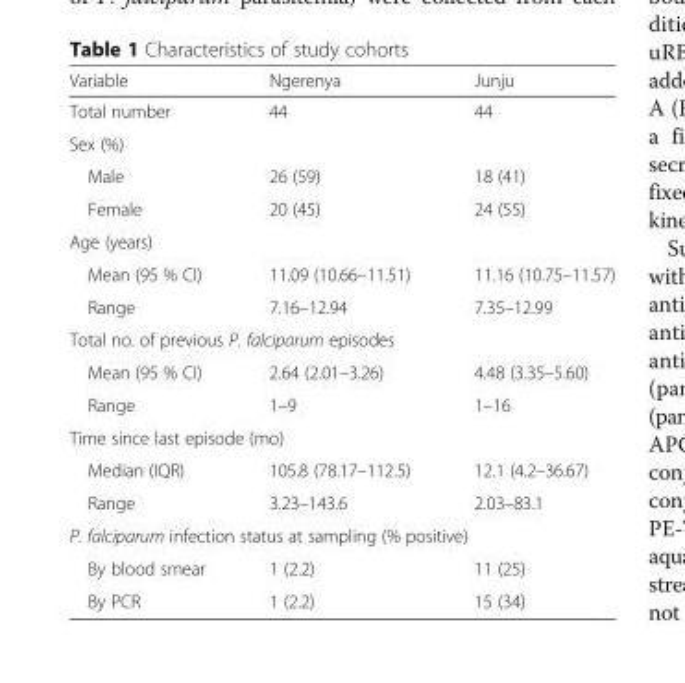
<table><thead><tr><td>Variable</td><td>Ngerenya</td><td>Junju</td></tr></thead><tbody><tr><td>Total number</td><td>44</td><td>44</td></tr><tr><td colspan="3">Sex (%)</td></tr><tr><td>Male</td><td>26 (59)</td><td>18 (41)</td></tr><tr><td>Female</td><td>20 (45)</td><td>24 (55)</td></tr><tr><td colspan="3">Age (years)</td></tr><tr><td>Mean (95 % CI)</td><td>11.09 (10.66–11.51)</td><td>11.16 (10.75–11.57)</td></tr><tr><td>Range</td><td>7.16–12.94</td><td>7.35–12.99</td></tr><tr><td colspan="3">Total no. of previous P. falciparum episodes</td></tr><tr><td>Mean (95 % CI)</td><td>2.64 (2.01–3.26)</td><td>4.48 (3.35–5.60)</td></tr><tr><td>Range</td><td>1–9</td><td>1–16</td></tr><tr><td colspan="3">Time since last episode (mo)</td></tr><tr><td>Median (IQR)</td><td>105.8 (78.17–112.5)</td><td>12.1 (4.2–36.67)</td></tr><tr><td>Range</td><td>3.23–143.6</td><td>2.03–83.1</td></tr><tr><td colspan="3">P. falciparum infection status at sampling (% positive)</td></tr><tr><td>By blood smear</td><td>1 (2.2)</td><td>11 (25)</td></tr><tr><td>By PCR</td><td>1 (2.2)</td><td>15 (34)</td></tr></tbody></table>